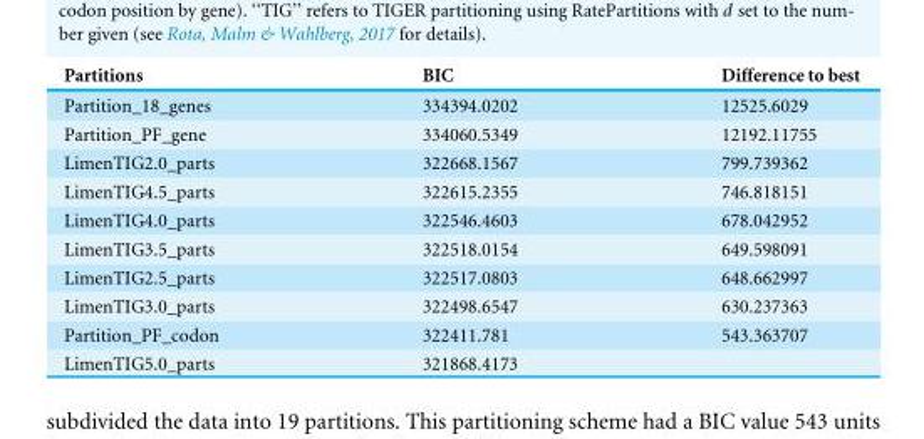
<table><thead><tr><td>Partitions</td><td>BIC</td><td>Difference to best</td></tr></thead><tbody><tr><td>Partition_18_genes</td><td>334394.0202</td><td>12525.6029</td></tr><tr><td>Partition_PF_gene</td><td>334060.5349</td><td>12192.11755</td></tr><tr><td>LimenTIG2.0_parts</td><td>322668.1567</td><td>799.739362</td></tr><tr><td>LimenTIG4.5_parts</td><td>322615.2355</td><td>746.818151</td></tr><tr><td>LimenTIG4.0_parts</td><td>322546.4603</td><td>678.042952</td></tr><tr><td>LimenTIG3.5_parts</td><td>322518.0154</td><td>649.598091</td></tr><tr><td>LimenTIG2.5_parts</td><td>322517.0803</td><td>648.662997</td></tr><tr><td>LimenTIG3.0_parts</td><td>322498.6547</td><td>630.237363</td></tr><tr><td>Partition_PF_codon</td><td>322411.781</td><td>543.363707</td></tr><tr><td>LimenTIG5.0_parts</td><td>321868.4173</td><td></td></tr></tbody></table>